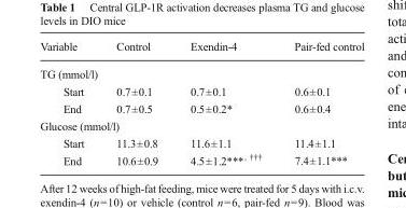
<table><thead><tr><td>Variable</td><td>Control</td><td>Exendin-4</td><td>Pair-fed control</td></tr></thead><tbody><tr><td colspan="4">TG (mmol/l)</td></tr><tr><td>Start</td><td>0.7±0.1</td><td>0.7±0.1</td><td>0.6±0.1</td></tr><tr><td>End</td><td>0.7±0.5</td><td>0.5±0.2*</td><td>0.6±0.4</td></tr><tr><td colspan="4">Glucose (mmol/l)</td></tr><tr><td>Start</td><td>11.3±0.8</td><td>11.6±1.1</td><td>11.4±1.1</td></tr><tr><td>End</td><td>10.6±0.9</td><td>4.5±1.2***<sup>, †††</sup></td><td>7.4±1.1***</td></tr></tbody></table>